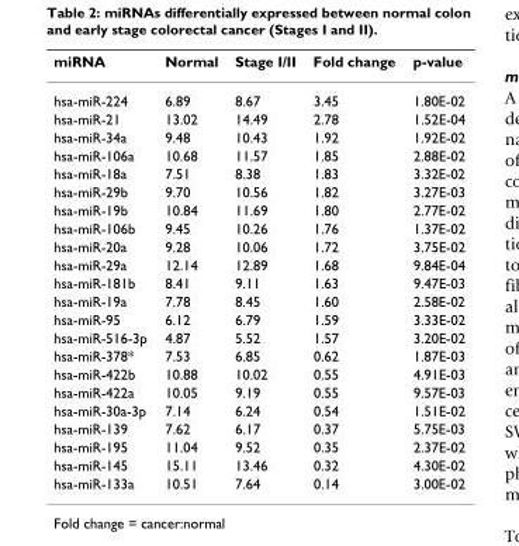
<table><thead><tr><td>miRNA</td><td>Normal</td><td>Stage I/II</td><td>Fold change</td><td>p-value</td></tr></thead><tbody><tr><td>hsa-miR-224</td><td>6.89</td><td>8.67</td><td>3.45</td><td>1.80E-02</td></tr><tr><td>hsa-miR-21</td><td>13.02</td><td>14.49</td><td>2.78</td><td>1.52E-04</td></tr><tr><td>hsa-miR-34a</td><td>9.48</td><td>10.43</td><td>1.92</td><td>1.92E-02</td></tr><tr><td>hsa-miR-106a</td><td>10.68</td><td>11.57</td><td>1.85</td><td>2.88E-02</td></tr><tr><td>hsa-miR-18a</td><td>7.51</td><td>8.38</td><td>1.83</td><td>3.32E-02</td></tr><tr><td>hsa-miR-29b</td><td>9.70</td><td>10.56</td><td>1.82</td><td>3.27E-03</td></tr><tr><td>hsa-miR-19b</td><td>10.84</td><td>11.69</td><td>1.80</td><td>2.77E-02</td></tr><tr><td>hsa-miR-106b</td><td>9.45</td><td>10.26</td><td>1.76</td><td>1.37E-02</td></tr><tr><td>hsa-miR-20a</td><td>9.28</td><td>10.06</td><td>1.72</td><td>3.75E-02</td></tr><tr><td>hsa-miR-29a</td><td>12.14</td><td>12.89</td><td>1.68</td><td>9.84E-04</td></tr><tr><td>hsa-miR-181b</td><td>8.41</td><td>9.11</td><td>1.63</td><td>9.47E-03</td></tr><tr><td>hsa-miR-19a</td><td>7.78</td><td>8.45</td><td>1.60</td><td>2.58E-02</td></tr><tr><td>hsa-miR-95</td><td>6.12</td><td>6.79</td><td>1.59</td><td>3.33E-02</td></tr><tr><td>hsa-miR-516-3p</td><td>4.87</td><td>5.52</td><td>1.57</td><td>3.20E-02</td></tr><tr><td>hsa-miR-378*</td><td>7.53</td><td>6.85</td><td>0.62</td><td>1.87E-03</td></tr><tr><td>hsa-miR-422b</td><td>10.88</td><td>10.02</td><td>0.55</td><td>4.91E-03</td></tr><tr><td>hsa-miR-422a</td><td>10.05</td><td>9.19</td><td>0.55</td><td>9.57E-03</td></tr><tr><td>hsa-miR-30a-3p</td><td>7.14</td><td>6.24</td><td>0.54</td><td>1.51E-02</td></tr><tr><td>hsa-miR-139</td><td>7.62</td><td>6.17</td><td>0.37</td><td>5.75E-03</td></tr><tr><td>hsa-miR-195</td><td>11.04</td><td>9.52</td><td>0.35</td><td>2.37E-02</td></tr><tr><td>hsa-miR-145</td><td>15.11</td><td>13.46</td><td>0.32</td><td>4.30E-02</td></tr><tr><td>hsa-miR-133a</td><td>10.51</td><td>7.64</td><td>0.14</td><td>3.00E-02</td></tr></tbody></table>